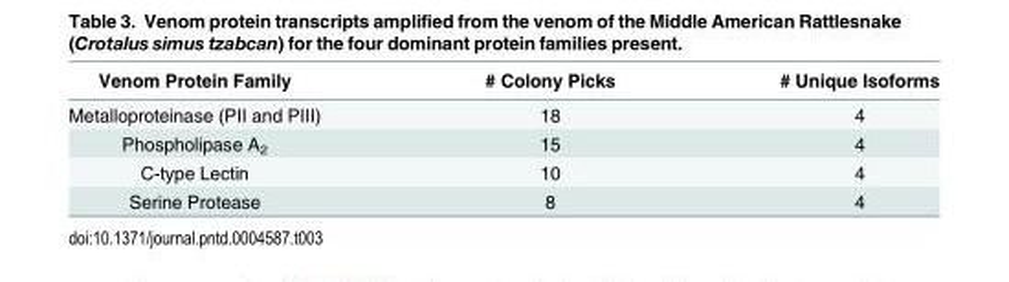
<table><thead><tr><td>Venom Protein Family</td><td># Colony Picks</td><td># Unique Isoforms</td></tr></thead><tbody><tr><td>Metalloproteinase (PII and PIII)</td><td>18</td><td>4</td></tr><tr><td>Phospholipase A<sub>2</sub></td><td>15</td><td>4</td></tr><tr><td>C-type Lectin</td><td>10</td><td>4</td></tr><tr><td>Serine Protease</td><td>8</td><td>4</td></tr></tbody></table>